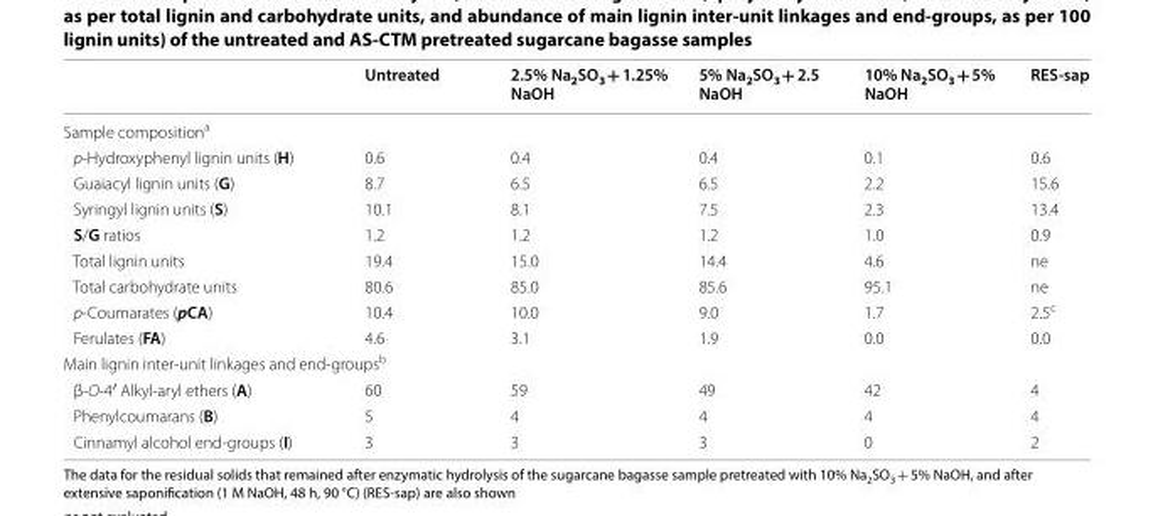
<table><thead><tr><td></td><td>Untreated</td><td>2.5% Na<sub>2</sub>SO<sub>3</sub> + 1.25% NaOH</td><td>5% Na<sub>2</sub>SO<sub>3</sub> + 2.5 NaOH</td><td>10% Na<sub>2</sub>SO<sub>3</sub> + 5% NaOH</td><td>RES‑sap</td></tr></thead><tbody><tr><td colspan="6">Sample composition<sup>a</sup></td></tr><tr><td>p-Hydroxyphenyl lignin units (H)</td><td>0.6</td><td>0.4</td><td>0.4</td><td>0.1</td><td>0.6</td></tr><tr><td>Guaiacyl lignin units (G)</td><td>8.7</td><td>6.5</td><td>6.5</td><td>2.2</td><td>15.6</td></tr><tr><td>Syringyl lignin units (S)</td><td>10.1</td><td>8.1</td><td>7.5</td><td>2.3</td><td>13.4</td></tr><tr><td>S/G ratios</td><td>1.2</td><td>1.2</td><td>1.2</td><td>1.0</td><td>0.9</td></tr><tr><td>Total lignin units</td><td>19.4</td><td>15.0</td><td>14.4</td><td>4.6</td><td>ne</td></tr><tr><td>Total carbohydrate units</td><td>80.6</td><td>85.0</td><td>85.6</td><td>95.1</td><td>ne</td></tr><tr><td>p-Coumarates (pCA)</td><td>10.4</td><td>10.0</td><td>9.0</td><td>1.7</td><td>2.5<sup>c</sup></td></tr><tr><td>Ferulates (FA)</td><td>4.6</td><td>3.1</td><td>1.9</td><td>0.0</td><td>0.0</td></tr><tr><td colspan="6">Main lignin inter-unit linkages and end-groups<sup>b</sup></td></tr><tr><td>β-O-4′ Alkyl-aryl ethers (A)</td><td>60</td><td>59</td><td>49</td><td>42</td><td>4</td></tr><tr><td>Phenylcoumarans (B)</td><td>5</td><td>4</td><td>4</td><td>4</td><td>4</td></tr><tr><td>Cinnamyl alcohol end-groups (I)</td><td>3</td><td>3</td><td>3</td><td>0</td><td>2</td></tr></tbody></table>